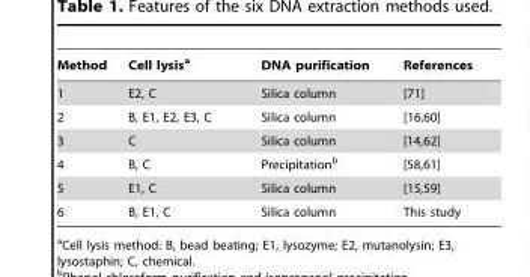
<table><thead><tr><td>Method</td><td>Cell lysis<sup>a</sup></td><td>DNA purification</td><td>References</td></tr></thead><tbody><tr><td>1</td><td>E2, C</td><td>Silica column</td><td>[71]</td></tr><tr><td>2</td><td>B, E1, E2, E3, C</td><td>Silica column</td><td>[16,60]</td></tr><tr><td>3</td><td>C</td><td>Silica column</td><td>[14,62]</td></tr><tr><td>4</td><td>B, C</td><td>Precipitation<sup>b</sup></td><td>[58,61]</td></tr><tr><td>5</td><td>E1, C</td><td>Silica column</td><td>[15,59]</td></tr><tr><td>6</td><td>B, E1, C</td><td>Silica column</td><td>This study</td></tr></tbody></table>